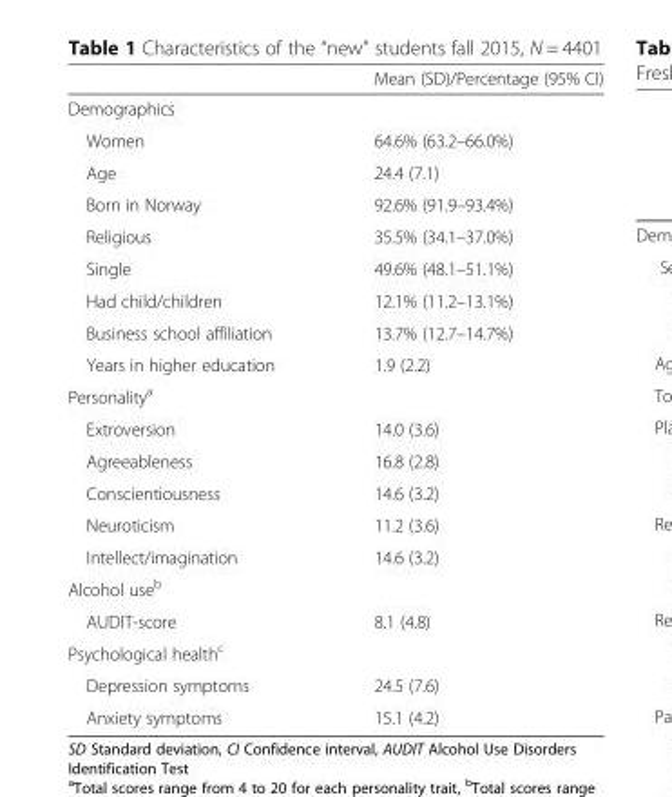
<table><thead><tr><td></td><td>Mean (SD)/Percentage (95% CI)</td></tr></thead><tbody><tr><td colspan="2">Demographics</td></tr><tr><td>Women</td><td>64.6% (63.2–66.0%)</td></tr><tr><td>Age</td><td>24.4 (7.1)</td></tr><tr><td>Born in Norway</td><td>92.6% (91.9–93.4%)</td></tr><tr><td>Religious</td><td>35.5% (34.1–37.0%)</td></tr><tr><td>Single</td><td>49.6% (48.1–51.1%)</td></tr><tr><td>Had child/children</td><td>12.1% (11.2–13.1%)</td></tr><tr><td>Business school affiliation</td><td>13.7% (12.7–14.7%)</td></tr><tr><td>Years in higher education</td><td>1.9 (2.2)</td></tr><tr><td colspan="2">Personality<sup>a</sup></td></tr><tr><td>Extroversion</td><td>14.0 (3.6)</td></tr><tr><td>Agreeableness</td><td>16.8 (2.8)</td></tr><tr><td>Conscientiousness</td><td>14.6 (3.2)</td></tr><tr><td>Neuroticism</td><td>11.2 (3.6)</td></tr><tr><td>Intellect/imagination</td><td>14.6 (3.2)</td></tr><tr><td colspan="2">Alcohol use<sup>b</sup></td></tr><tr><td>AUDIT-score</td><td>8.1 (4.8)</td></tr><tr><td colspan="2">Psychological health<sup>c</sup></td></tr><tr><td>Depression symptoms</td><td>24.5 (7.6)</td></tr><tr><td>Anxiety symptoms</td><td>15.1 (4.2)</td></tr></tbody></table>